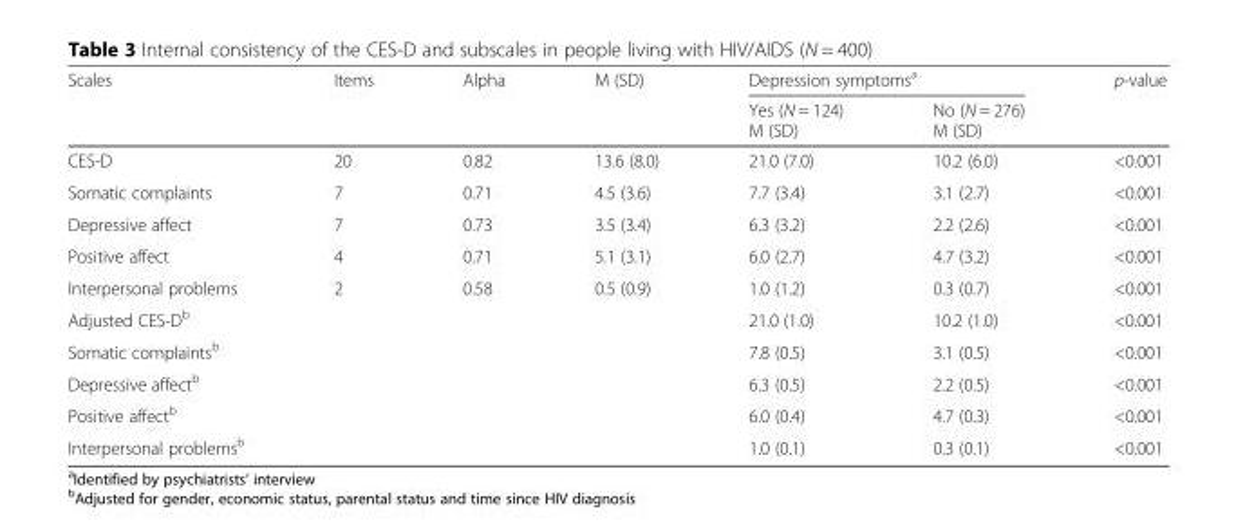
<table><thead><tr><td rowspan="2">Scales</td><td rowspan="2">Items</td><td rowspan="2">Alpha</td><td rowspan="2">M (SD)</td><td colspan="2">Depression symptoms<sup>a</sup></td><td rowspan="2">p-value</td></tr><tr><td>Yes (N = 124) M (SD)</td><td>No (N = 276) M (SD)</td></tr></thead><tbody><tr><td>CES-D</td><td>20</td><td>0.82</td><td>13.6 (8.0)</td><td>21.0 (7.0)</td><td>10.2 (6.0)</td><td>&lt;0.001</td></tr><tr><td>Somatic complaints</td><td>7</td><td>0.71</td><td>4.5 (3.6)</td><td>7.7 (3.4)</td><td>3.1 (2.7)</td><td>&lt;0.001</td></tr><tr><td>Depressive affect</td><td>7</td><td>0.73</td><td>3.5 (3.4)</td><td>6.3 (3.2)</td><td>2.2 (2.6)</td><td>&lt;0.001</td></tr><tr><td>Positive affect</td><td>4</td><td>0.71</td><td>5.1 (3.1)</td><td>6.0 (2.7)</td><td>4.7 (3.2)</td><td>&lt;0.001</td></tr><tr><td>Interpersonal problems</td><td>2</td><td>0.58</td><td>0.5 (0.9)</td><td>1.0 (1.2)</td><td>0.3 (0.7)</td><td>&lt;0.001</td></tr><tr><td>Adjusted CES-D<sup>b</sup></td><td></td><td></td><td></td><td>21.0 (1.0)</td><td>10.2 (1.0)</td><td>&lt;0.001</td></tr><tr><td>Somatic complaints<sup>b</sup></td><td></td><td></td><td></td><td>7.8 (0.5)</td><td>3.1 (0.5)</td><td>&lt;0.001</td></tr><tr><td>Depressive affect<sup>b</sup></td><td></td><td></td><td></td><td>6.3 (0.5)</td><td>2.2 (0.5)</td><td>&lt;0.001</td></tr><tr><td>Positive affect<sup>b</sup></td><td></td><td></td><td></td><td>6.0 (0.4)</td><td>4.7 (0.3)</td><td>&lt;0.001</td></tr><tr><td>Interpersonal problems<sup>b</sup></td><td></td><td></td><td></td><td>1.0 (0.1)</td><td>0.3 (0.1)</td><td>&lt;0.001</td></tr></tbody></table>